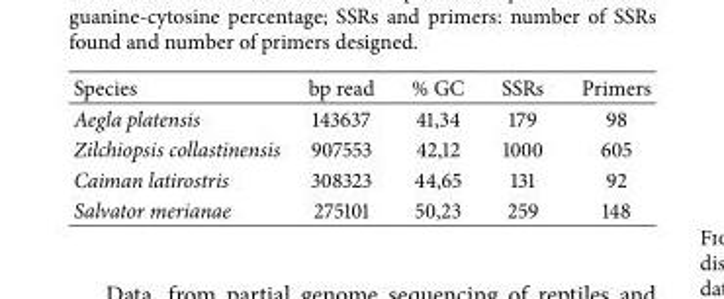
<table><thead><tr><td>Species</td><td>bp read</td><td>% GC</td><td>SSRs</td><td>Primers</td></tr></thead><tbody><tr><td>Aegla platensis</td><td>143637</td><td>41,34</td><td>179</td><td>98</td></tr><tr><td>Zilchiopsis collastinensis</td><td>907553</td><td>42,12</td><td>1000</td><td>605</td></tr><tr><td>Caiman latirostris</td><td>308323</td><td>44,65</td><td>131</td><td>92</td></tr><tr><td>Salvator merianae</td><td>275101</td><td>50,23</td><td>259</td><td>148</td></tr></tbody></table>